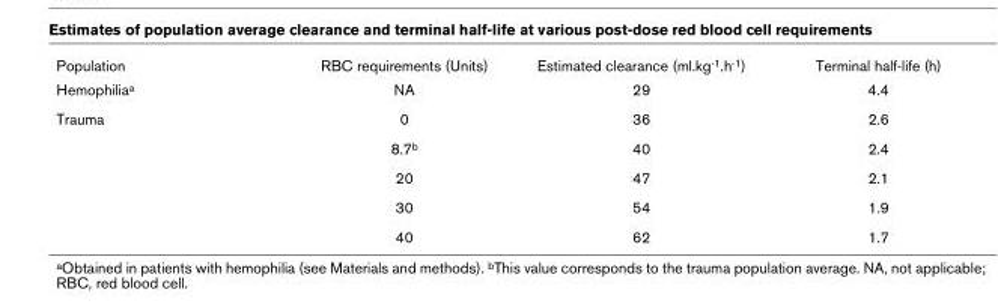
<table><tbody><tr><td>Population</td><td>RBC requirements (Units)</td><td>Estimated clearance (ml.kg-1.h-1)</td><td>Terminal half-life (h)</td></tr><tr><td>Hemophiliaa</td><td>NA</td><td>29</td><td>4.4</td></tr><tr><td rowspan="5">Trauma</td><td>0</td><td>36</td><td>2.6</td></tr><tr><td>8.7b</td><td>40</td><td>2.4</td></tr><tr><td>20</td><td>47</td><td>2.1</td></tr><tr><td>30</td><td>54</td><td>1.9</td></tr><tr><td>40</td><td>62</td><td>1.7</td></tr></tbody></table>